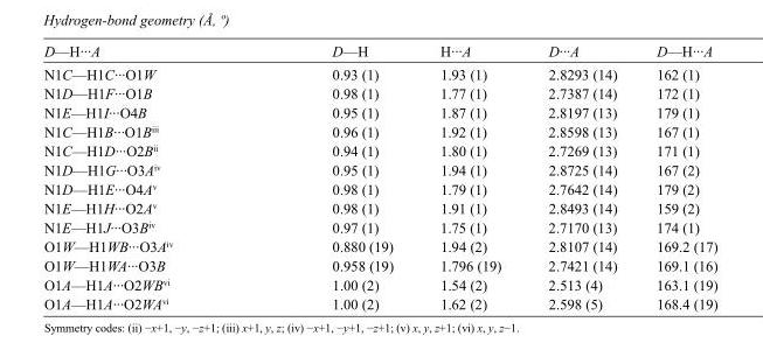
<table><tbody><tr><td>D—H···A</td><td>D—H</td><td>H···A</td><td>D···A</td><td>D—H···A</td></tr><tr><td>N1C—H1C···O1W</td><td>0.93 (1)</td><td>1.93 (1)</td><td>2.8293 (14)</td><td>162 (1)</td></tr><tr><td>N1D—H1F···O1B</td><td>0.98 (1)</td><td>1.77 (1)</td><td>2.7387 (14)</td><td>172 (1)</td></tr><tr><td>N1E—H1I···O4B</td><td>0.95 (1)</td><td>1.87 (1)</td><td>2.8197 (13)</td><td>179 (1)</td></tr><tr><td>N1C—H1B···O1B<sup>iii</sup></td><td>0.96 (1)</td><td>1.92 (1)</td><td>2.8598 (13)</td><td>167 (1)</td></tr><tr><td>N1C—H1D···O2B<sup>ii</sup></td><td>0.94 (1)</td><td>1.80 (1)</td><td>2.7269 (13)</td><td>171 (1)</td></tr><tr><td>N1D—H1G···O3A<sup>iv</sup></td><td>0.95 (1)</td><td>1.94 (1)</td><td>2.8725 (14)</td><td>167 (2)</td></tr><tr><td>N1D—H1E···O4A<sup>v</sup></td><td>0.98 (1)</td><td>1.79 (1)</td><td>2.7642 (14)</td><td>179 (2)</td></tr><tr><td>N1E—H1H···O2A<sup>v</sup></td><td>0.98 (1)</td><td>1.91 (1)</td><td>2.8493 (14)</td><td>159 (2)</td></tr><tr><td>N1E—H1J···O3B<sup>iv</sup></td><td>0.97 (1)</td><td>1.75 (1)</td><td>2.7170 (13)</td><td>174 (1)</td></tr><tr><td>O1W—H1WB···O3A<sup>iv</sup></td><td>0.880 (19)</td><td>1.94 (2)</td><td>2.8107 (14)</td><td>169.2 (17)</td></tr><tr><td>O1W—H1WA···O3B</td><td>0.958 (19)</td><td>1.796 (19)</td><td>2.7421 (14)</td><td>169.1 (16)</td></tr><tr><td>O1A—H1A···O2WB<sup>vi</sup></td><td>1.00 (2)</td><td>1.54 (2)</td><td>2.513 (4)</td><td>163.1 (19)</td></tr><tr><td>O1A—H1A···O2WA<sup>vi</sup></td><td>1.00 (2)</td><td>1.62 (2)</td><td>2.598 (5)</td><td>168.4 (19)</td></tr></tbody></table>